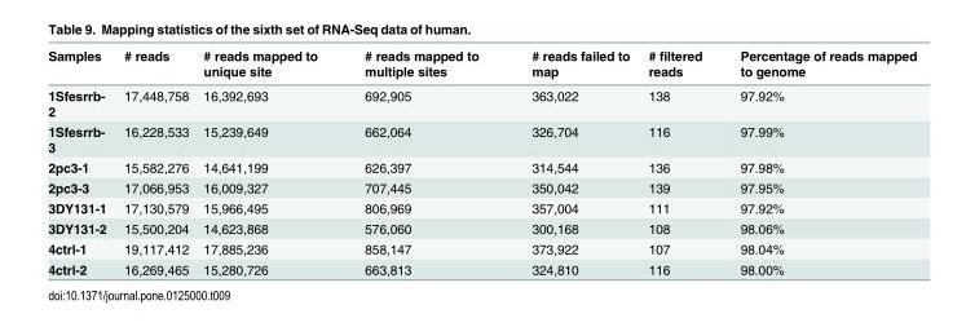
<table><thead><tr><td>Samples</td><td># reads</td><td># reads mapped to unique site</td><td># reads mapped to multiple sites</td><td># reads failed to map</td><td># filtered reads</td><td>Percentage of reads mapped to genome</td></tr></thead><tbody><tr><td>1Sfesrrb- 2</td><td>17,448,758</td><td>16,392,693</td><td>692,905</td><td>363,022</td><td>138</td><td>97.92%</td></tr><tr><td>1Sfesrrb- 3</td><td>16,228,533</td><td>15,239,649</td><td>662,064</td><td>326,704</td><td>116</td><td>97.99%</td></tr><tr><td>2pc3-1</td><td>15,582,276</td><td>14,641,199</td><td>626,397</td><td>314,544</td><td>136</td><td>97.98%</td></tr><tr><td>2pc3-3</td><td>17,066,953</td><td>16,009,327</td><td>707,445</td><td>350,042</td><td>139</td><td>97.95%</td></tr><tr><td>3DY131-1</td><td>17,130,579</td><td>15,966,495</td><td>806,969</td><td>357,004</td><td>111</td><td>97.92%</td></tr><tr><td>3DY131-2</td><td>15,500,204</td><td>14,623,868</td><td>576,060</td><td>300,168</td><td>108</td><td>98.06%</td></tr><tr><td>4ctrl-1</td><td>19,117,412</td><td>17,885,236</td><td>858,147</td><td>373,922</td><td>107</td><td>98.04%</td></tr><tr><td>4ctrl-2</td><td>16,269,465</td><td>15,280,726</td><td>663,813</td><td>324,810</td><td>116</td><td>98.00%</td></tr></tbody></table>